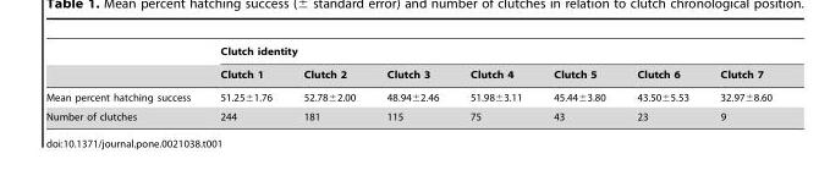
<table><thead><tr><td rowspan="2"></td><td colspan="7">Clutch identity</td></tr><tr><td>Clutch 1</td><td>Clutch 2</td><td>Clutch 3</td><td>Clutch 4</td><td>Clutch 5</td><td>Clutch 6</td><td>Clutch 7</td></tr></thead><tbody><tr><td>Mean percent hatching success</td><td>51.25±1.76</td><td>52.78±2.00</td><td>48.94±2.46</td><td>51.98±3.11</td><td>45.44±3.80</td><td>43.50±5.53</td><td>32.97±8.60</td></tr><tr><td>Number of clutches</td><td>244</td><td>181</td><td>115</td><td>75</td><td>43</td><td>23</td><td>9</td></tr></tbody></table>